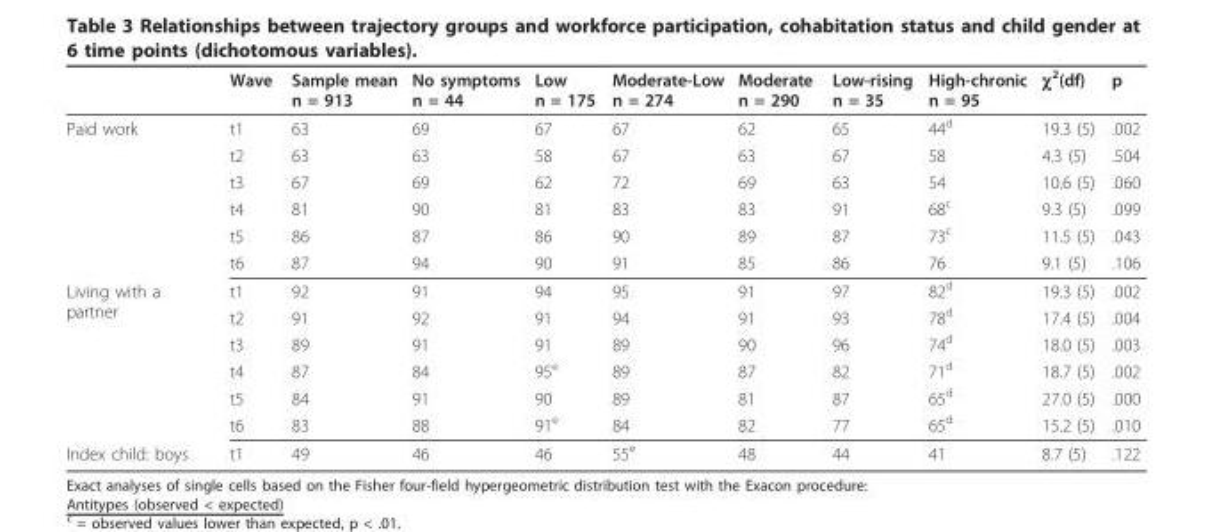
<table><thead><tr><td></td><td>Wave</td><td>Sample mean n = 913</td><td>No symptoms n = 44</td><td>Low n = 175</td><td>Moderate-Low n = 274</td><td>Moderate n = 290</td><td>Low-rising n = 35</td><td>High-chronic n = 95</td><td>χ<sup>2</sup>(df)</td><td>p</td></tr></thead><tbody><tr><td rowspan="6">Paid work</td><td>t1</td><td>63</td><td>69</td><td>67</td><td>67</td><td>62</td><td>65</td><td>44<sup>d</sup></td><td>19.3 (5)</td><td>.002</td></tr><tr><td>t2</td><td>63</td><td>63</td><td>58</td><td>67</td><td>63</td><td>67</td><td>58</td><td>4.3 (5)</td><td>.504</td></tr><tr><td>t3</td><td>67</td><td>69</td><td>62</td><td>72</td><td>69</td><td>63</td><td>54</td><td>10.6 (5)</td><td>.060</td></tr><tr><td>t4</td><td>81</td><td>90</td><td>81</td><td>83</td><td>83</td><td>91</td><td>68<sup>c</sup></td><td>9.3 (5)</td><td>.099</td></tr><tr><td>t5</td><td>86</td><td>87</td><td>86</td><td>90</td><td>89</td><td>87</td><td>73<sup>c</sup></td><td>11.5 (5)</td><td>.043</td></tr><tr><td>t6</td><td>87</td><td>94</td><td>90</td><td>91</td><td>85</td><td>86</td><td>76</td><td>9.1 (5)</td><td>.106</td></tr><tr><td rowspan="6">Living with a partner</td><td>t1</td><td>92</td><td>91</td><td>94</td><td>95</td><td>91</td><td>97</td><td>82<sup>d</sup></td><td>19.3 (5)</td><td>.002</td></tr><tr><td>t2</td><td>91</td><td>92</td><td>91</td><td>94</td><td>91</td><td>93</td><td>78<sup>d</sup></td><td>17.4 (5)</td><td>.004</td></tr><tr><td>t3</td><td>89</td><td>91</td><td>91</td><td>89</td><td>90</td><td>96</td><td>74<sup>d</sup></td><td>18.0 (5)</td><td>.003</td></tr><tr><td>t4</td><td>87</td><td>84</td><td>95<sup>e</sup></td><td>89</td><td>87</td><td>82</td><td>71<sup>d</sup></td><td>18.7 (5)</td><td>.002</td></tr><tr><td>t5</td><td>84</td><td>91</td><td>90</td><td>89</td><td>81</td><td>87</td><td>65<sup>d</sup></td><td>27.0 (5)</td><td>.000</td></tr><tr><td>t6</td><td>83</td><td>88</td><td>91<sup>e</sup></td><td>84</td><td>82</td><td>77</td><td>65<sup>d</sup></td><td>15.2 (5)</td><td>.010</td></tr><tr><td>Index child: boys</td><td>t1</td><td>49</td><td>46</td><td>46</td><td>55<sup>e</sup></td><td>48</td><td>44</td><td>41</td><td>8.7 (5)</td><td>.122</td></tr></tbody></table>